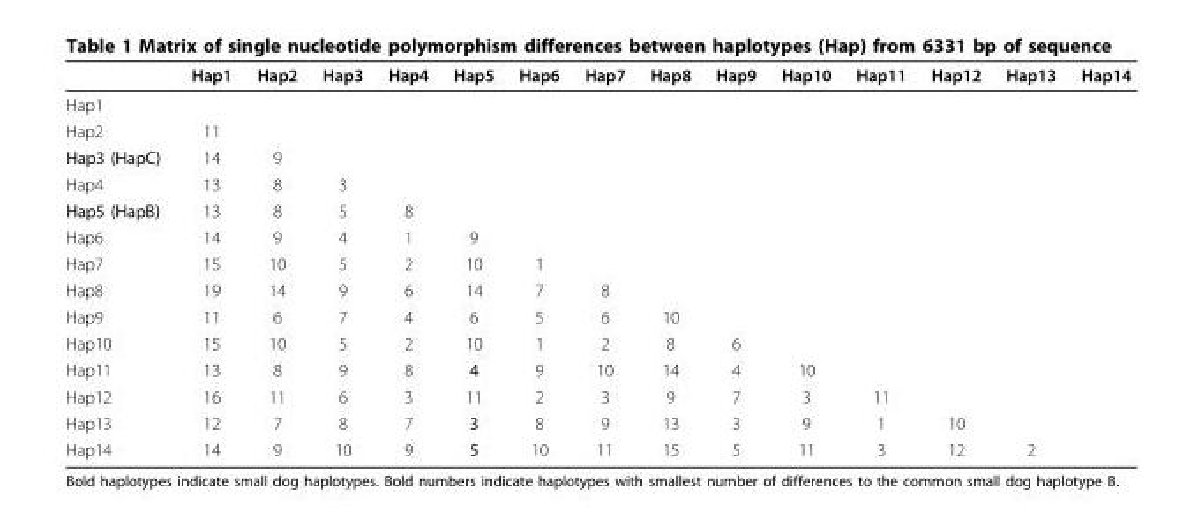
<table><thead><tr><td></td><td>Hap1</td><td>Hap2</td><td>Hap3</td><td>Hap4</td><td>Hap5</td><td>Hap6</td><td>Hap7</td><td>Hap8</td><td>Hap9</td><td>Hap10</td><td>Hap11</td><td>Hap12</td><td>Hap13</td><td>Hap14</td></tr></thead><tbody><tr><td colspan="15">Hap1</td></tr><tr><td>Hap2</td><td>11</td><td></td><td></td><td></td><td></td><td></td><td></td><td></td><td></td><td></td><td></td><td></td><td></td><td></td></tr><tr><td>Hap3 (HapC)</td><td>14</td><td>9</td><td></td><td></td><td></td><td></td><td></td><td></td><td></td><td></td><td></td><td></td><td></td><td></td></tr><tr><td>Hap4</td><td>13</td><td>8</td><td>3</td><td></td><td></td><td></td><td></td><td></td><td></td><td></td><td></td><td></td><td></td><td></td></tr><tr><td>Hap5 (HapB)</td><td>13</td><td>8</td><td>5</td><td>8</td><td></td><td></td><td></td><td></td><td></td><td></td><td></td><td></td><td></td><td></td></tr><tr><td>Hap6</td><td>14</td><td>9</td><td>4</td><td>1</td><td>9</td><td></td><td></td><td></td><td></td><td></td><td></td><td></td><td></td><td></td></tr><tr><td>Hap7</td><td>15</td><td>10</td><td>5</td><td>2</td><td>10</td><td>1</td><td></td><td></td><td></td><td></td><td></td><td></td><td></td><td></td></tr><tr><td>Hap8</td><td>19</td><td>14</td><td>9</td><td>6</td><td>14</td><td>7</td><td>8</td><td></td><td></td><td></td><td></td><td></td><td></td><td></td></tr><tr><td>Hap9</td><td>11</td><td>6</td><td>7</td><td>4</td><td>6</td><td>5</td><td>6</td><td>10</td><td></td><td></td><td></td><td></td><td></td><td></td></tr><tr><td>Hap10</td><td>15</td><td>10</td><td>5</td><td>2</td><td>10</td><td>1</td><td>2</td><td>8</td><td>6</td><td></td><td></td><td></td><td></td><td></td></tr><tr><td>Hap11</td><td>13</td><td>8</td><td>9</td><td>8</td><td>4</td><td>9</td><td>10</td><td>14</td><td>4</td><td>10</td><td></td><td></td><td></td><td></td></tr><tr><td>Hap12</td><td>16</td><td>11</td><td>6</td><td>3</td><td>11</td><td>2</td><td>3</td><td>9</td><td>7</td><td>3</td><td>11</td><td></td><td></td><td></td></tr><tr><td>Hap13</td><td>12</td><td>7</td><td>8</td><td>7</td><td>3</td><td>8</td><td>9</td><td>13</td><td>3</td><td>9</td><td>1</td><td>10</td><td></td><td></td></tr><tr><td>Hap14</td><td>14</td><td>9</td><td>10</td><td>9</td><td>5</td><td>10</td><td>11</td><td>15</td><td>5</td><td>11</td><td>3</td><td>12</td><td>2</td><td></td></tr></tbody></table>